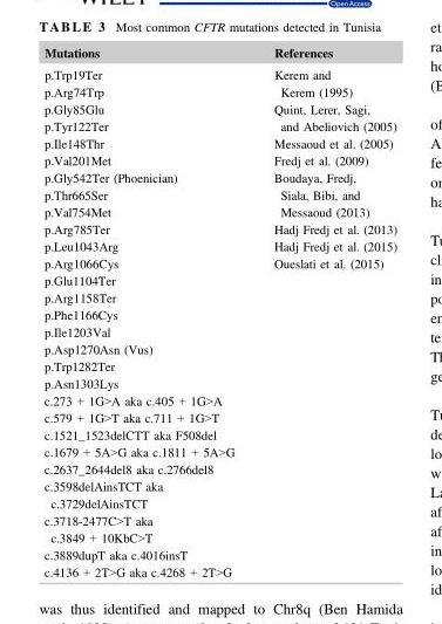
<table><thead><tr><td>Mutations</td><td>References</td></tr></thead><tbody><tr><td>p.Trp19Ter p.Arg74Trp p.Gly85Glu p.Tyr122Ter p.Ile148Thr p.Val201Met p.Gly542Ter (Phoenician) p.Thr665Ser p.Val754Met p.Arg785Ter p.Leu1043Arg p.Arg1066Cys p.Glu1104Ter p.Arg1158Ter p.Phe1166Cys p.Ile1203Val p.Asp1270Asn (Vus) p.Trp1282Ter p.Asn1303Lys c.273 + 1G&gt;A aka c.405 + 1G&gt;A c.579 + 1G&gt;T aka c.711 + 1G&gt;T c.1521_1523delCTT aka F508del c.1679 + 5A&gt;G aka c.1811 + 5A&gt;G c.2637_2644del8 aka c.2766del8 c.3598delAinsTCT aka c.3729delAinsTCT c.3718-2477C&gt;T aka c.3849 + 10KbC&gt;T c.3889dupT aka c.4016insT c.4136 + 2T&gt;G aka c.4268 + 2T&gt;G</td><td>Kerem and Kerem (1995) Quint, Lerer, Sagi, and Abeliovich (2005) Messaoud et al. (2005) Fredj et al. (2009) Boudaya, Fredj, Siala, Bibi, and Messaoud (2013) Hadj Fredj et al. (2013) Hadj Fredj et al. (2015) Oueslati et al. (2015)</td></tr></tbody></table>